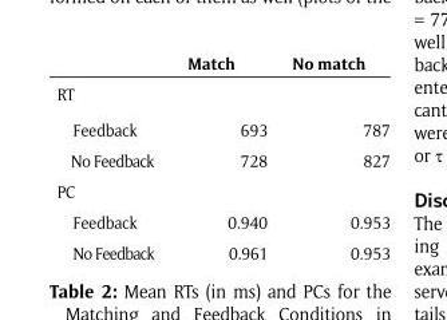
<table><thead><tr><td></td><td>Match</td><td>No match</td></tr></thead><tbody><tr><td colspan="3">RT</td></tr><tr><td>Feedback</td><td>693</td><td>787</td></tr><tr><td>No Feedback</td><td>728</td><td>827</td></tr><tr><td colspan="3">PC</td></tr><tr><td>Feedback</td><td>0.940</td><td>0.953</td></tr><tr><td>No Feedback</td><td>0.961</td><td>0.953</td></tr></tbody></table>